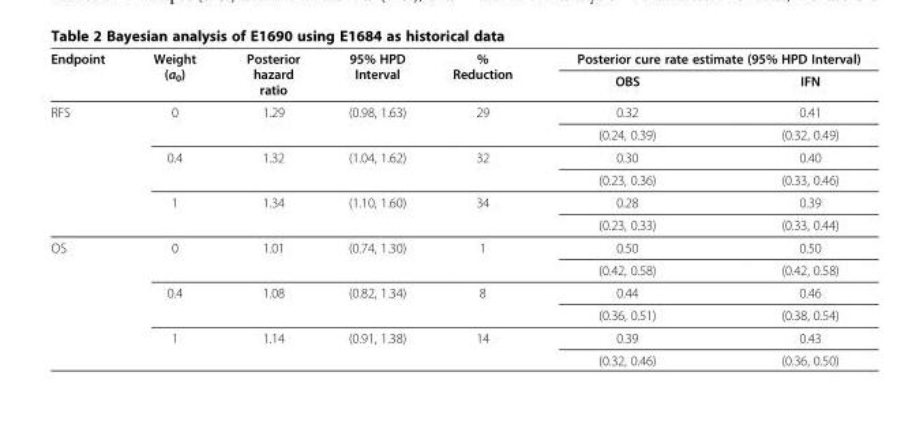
<table><thead><tr><td rowspan="2">Endpoint</td><td rowspan="2">Weight (a<sub>0</sub>)</td><td rowspan="2">Posterior hazard ratio</td><td rowspan="2">95% HPD Interval</td><td rowspan="2">% Reduction</td><td colspan="2">Posterior cure rate estimate (95% HPD Interval)</td></tr><tr><td>OBS</td><td>IFN</td></tr></thead><tbody><tr><td rowspan="6">RFS</td><td rowspan="2">0</td><td rowspan="2">1.29</td><td rowspan="2">(0.98, 1.63)</td><td rowspan="2">29</td><td>0.32</td><td>0.41</td></tr><tr><td>(0.24, 0.39)</td><td>(0.32, 0.49)</td></tr><tr><td rowspan="2">0.4</td><td rowspan="2">1.32</td><td rowspan="2">(1.04, 1.62)</td><td rowspan="2">32</td><td>0.30</td><td>0.40</td></tr><tr><td>(0.23, 0.36)</td><td>(0.33, 0.46)</td></tr><tr><td rowspan="2">1</td><td rowspan="2">1.34</td><td rowspan="2">(1.10, 1.60)</td><td rowspan="2">34</td><td>0.28</td><td>0.39</td></tr><tr><td>(0.23, 0.33)</td><td>(0.33, 0.44)</td></tr><tr><td rowspan="6">OS</td><td rowspan="2">0</td><td rowspan="2">1.01</td><td rowspan="2">(0.74, 1.30)</td><td rowspan="2">1</td><td>0.50</td><td>0.50</td></tr><tr><td>(0.42, 0.58)</td><td>(0.42, 0.58)</td></tr><tr><td rowspan="2">0.4</td><td rowspan="2">1.08</td><td rowspan="2">(0.82, 1.34)</td><td rowspan="2">8</td><td>0.44</td><td>0.46</td></tr><tr><td>(0.36, 0.51)</td><td>(0.38, 0.54)</td></tr><tr><td rowspan="2">1</td><td rowspan="2">1.14</td><td rowspan="2">(0.91, 1.38)</td><td rowspan="2">14</td><td>0.39</td><td>0.43</td></tr><tr><td>(0.32, 0.46)</td><td>(0.36, 0.50)</td></tr></tbody></table>